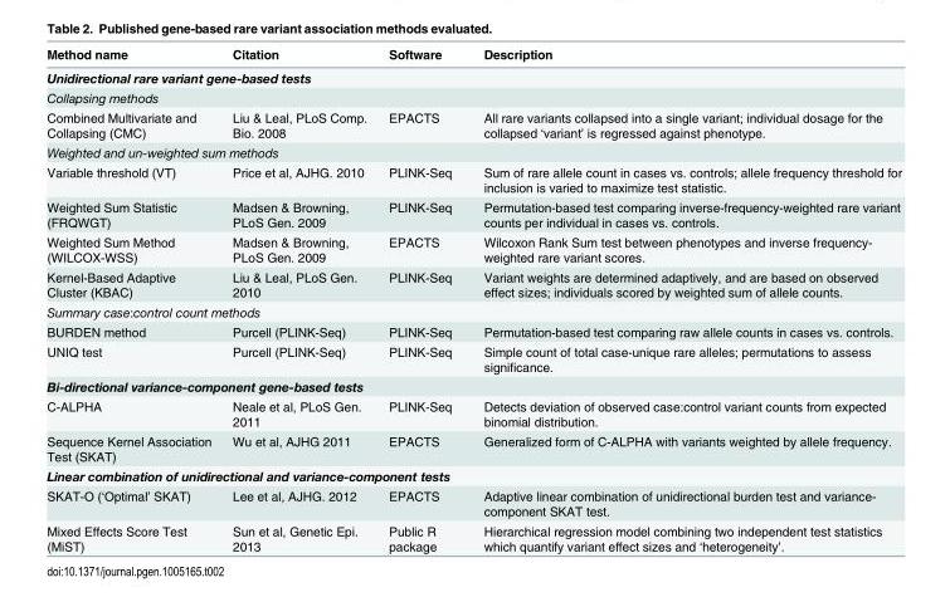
<table><thead><tr><td>Method name</td><td>Citation</td><td>Software</td><td>Description</td></tr></thead><tbody><tr><td colspan="4">Unidirectional rare variant gene-based tests</td></tr><tr><td colspan="4">Collapsing methods</td></tr><tr><td>Combined Multivariate and Collapsing (CMC)</td><td>Liu &amp; Leal, PLoS Comp. Bio. 2008</td><td>EPACTS</td><td>All rare variants collapsed into a single variant; individual dosage for the collapsed ‘variant’ is regressed against phenotype.</td></tr><tr><td colspan="4">Weighted and un-weighted sum methods</td></tr><tr><td>Variable threshold (VT)</td><td>Price et al, AJHG. 2010</td><td>PLINK-Seq</td><td>Sum of rare allele count in cases vs. controls; allele frequency threshold for inclusion is varied to maximize test statistic.</td></tr><tr><td>Weighted Sum Statistic (FRQWGT)</td><td>Madsen &amp; Browning, PLoS Gen. 2009</td><td>PLINK-Seq</td><td>Permutation-based test comparing inverse-frequency-weighted rare variant counts per individual in cases vs. controls.</td></tr><tr><td>Weighted Sum Method (WILCOX-WSS)</td><td>Madsen &amp; Browning, PLoS Gen. 2009</td><td>EPACTS</td><td>Wilcoxon Rank Sum test between phenotypes and inverse frequency- weighted rare variant scores.</td></tr><tr><td>Kernel-Based Adaptive Cluster (KBAC)</td><td>Liu &amp; Leal, PLoS Gen. 2010</td><td>PLINK-Seq</td><td>Variant weights are determined adaptively, and are based on observed effect sizes; individuals scored by weighted sum of allele counts.</td></tr><tr><td colspan="4">Summary case:control count methods</td></tr><tr><td>BURDEN method</td><td>Purcell (PLINK-Seq)</td><td>PLINK-Seq</td><td>Permutation-based test comparing raw allele counts in cases vs. controls.</td></tr><tr><td>UNIQ test</td><td>Purcell (PLINK-Seq)</td><td>PLINK-Seq</td><td>Simple count of total case-unique rare alleles; permutations to assess significance.</td></tr><tr><td colspan="4">Bi-directional variance-component gene-based tests</td></tr><tr><td>C-ALPHA</td><td>Neale et al, PLoS Gen. 2011</td><td>PLINK-Seq</td><td>Detects deviation of observed case:control variant counts from expected binomial distribution.</td></tr><tr><td>Sequence Kernel Association Test (SKAT)</td><td>Wu et al, AJHG 2011</td><td>EPACTS</td><td>Generalized form of C-ALPHA with variants weighted by allele frequency.</td></tr><tr><td colspan="4">Linear combination of unidirectional and variance-component tests</td></tr><tr><td>SKAT-O (‘Optimal’ SKAT)</td><td>Lee et al, AJHG. 2012</td><td>EPACTS</td><td>Adaptive linear combination of unidirectional burden test and variance- component SKAT test.</td></tr><tr><td>Mixed Effects Score Test (MiST)</td><td>Sun et al, Genetic Epi. 2013</td><td>Public R package</td><td>Hierarchical regression model combining two independent test statistics which quantify variant effect sizes and ‘heterogeneity’.</td></tr></tbody></table>